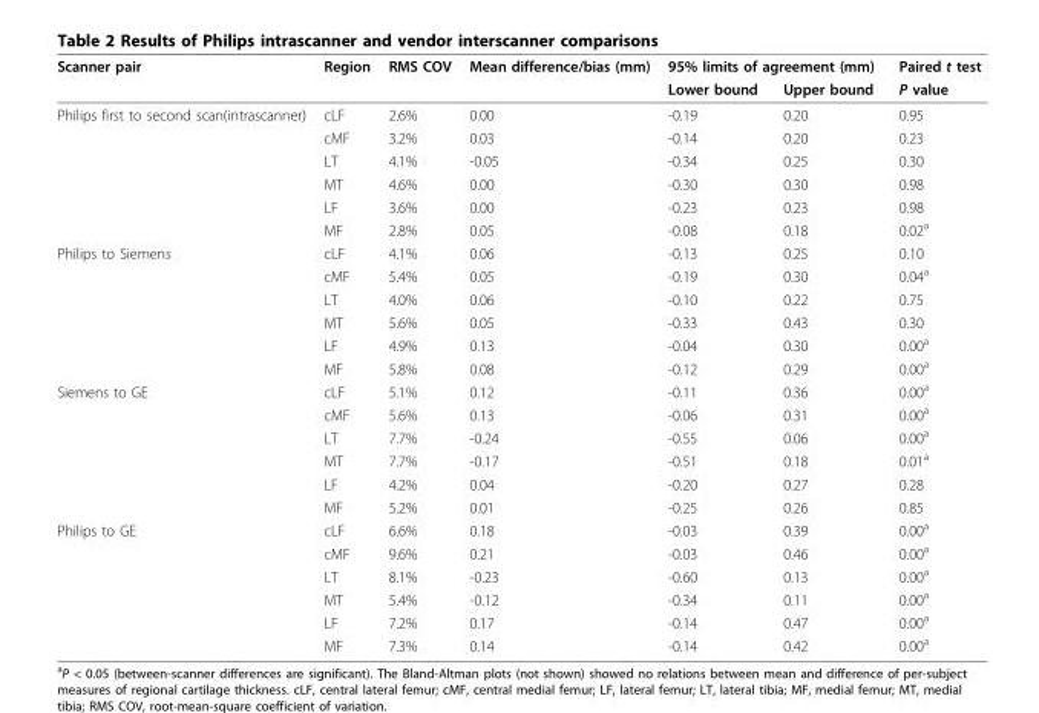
<table><thead><tr><td rowspan="2">Scanner pair</td><td rowspan="2">Region</td><td rowspan="2">RMS COV</td><td rowspan="2">Mean difference/bias (mm)</td><td colspan="2">95% limits of agreement (mm)</td><td rowspan="2">Paired t test P value</td></tr><tr><td>Lower bound</td><td>Upper bound</td></tr></thead><tbody><tr><td rowspan="6">Philips first to second scan(intrascanner)</td><td>cLF</td><td>2.6%</td><td>0.00</td><td>-0.19</td><td>0.20</td><td>0.95</td></tr><tr><td>cMF</td><td>3.2%</td><td>0.03</td><td>-0.14</td><td>0.20</td><td>0.23</td></tr><tr><td>LT</td><td>4.1%</td><td>-0.05</td><td>-0.34</td><td>0.25</td><td>0.30</td></tr><tr><td>MT</td><td>4.6%</td><td>0.00</td><td>-0.30</td><td>0.30</td><td>0.98</td></tr><tr><td>LF</td><td>3.6%</td><td>0.00</td><td>-0.23</td><td>0.23</td><td>0.98</td></tr><tr><td>MF</td><td>2.8%</td><td>0.05</td><td>-0.08</td><td>0.18</td><td>0.02<sup>a</sup></td></tr><tr><td rowspan="6">Philips to Siemens</td><td>cLF</td><td>4.1%</td><td>0.06</td><td>-0.13</td><td>0.25</td><td>0.10</td></tr><tr><td>cMF</td><td>5.4%</td><td>0.05</td><td>-0.19</td><td>0.30</td><td>0.04<sup>a</sup></td></tr><tr><td>LT</td><td>4.0%</td><td>0.06</td><td>-0.10</td><td>0.22</td><td>0.75</td></tr><tr><td>MT</td><td>5.6%</td><td>0.05</td><td>-0.33</td><td>0.43</td><td>0.30</td></tr><tr><td>LF</td><td>4.9%</td><td>0.13</td><td>-0.04</td><td>0.30</td><td>0.00<sup>a</sup></td></tr><tr><td>MF</td><td>5.8%</td><td>0.08</td><td>-0.12</td><td>0.29</td><td>0.00<sup>a</sup></td></tr><tr><td rowspan="6">Siemens to GE</td><td>cLF</td><td>5.1%</td><td>0.12</td><td>-0.11</td><td>0.36</td><td>0.00<sup>a</sup></td></tr><tr><td>cMF</td><td>5.6%</td><td>0.13</td><td>-0.06</td><td>0.31</td><td>0.00<sup>a</sup></td></tr><tr><td>LT</td><td>7.7%</td><td>-0.24</td><td>-0.55</td><td>0.06</td><td>0.00<sup>a</sup></td></tr><tr><td>MT</td><td>7.7%</td><td>-0.17</td><td>-0.51</td><td>0.18</td><td>0.01<sup>a</sup></td></tr><tr><td>LF</td><td>4.2%</td><td>0.04</td><td>-0.20</td><td>0.27</td><td>0.28</td></tr><tr><td>MF</td><td>5.2%</td><td>0.01</td><td>-0.25</td><td>0.26</td><td>0.85</td></tr><tr><td rowspan="6">Philips to GE</td><td>cLF</td><td>6.6%</td><td>0.18</td><td>-0.03</td><td>0.39</td><td>0.00<sup>a</sup></td></tr><tr><td>cMF</td><td>9.6%</td><td>0.21</td><td>-0.03</td><td>0.46</td><td>0.00<sup>a</sup></td></tr><tr><td>LT</td><td>8.1%</td><td>-0.23</td><td>-0.60</td><td>0.13</td><td>0.00<sup>a</sup></td></tr><tr><td>MT</td><td>5.4%</td><td>-0.12</td><td>-0.34</td><td>0.11</td><td>0.00<sup>a</sup></td></tr><tr><td>LF</td><td>7.2%</td><td>0.17</td><td>-0.14</td><td>0.47</td><td>0.00<sup>a</sup></td></tr><tr><td>MF</td><td>7.3%</td><td>0.14</td><td>-0.14</td><td>0.42</td><td>0.00<sup>a</sup></td></tr></tbody></table>